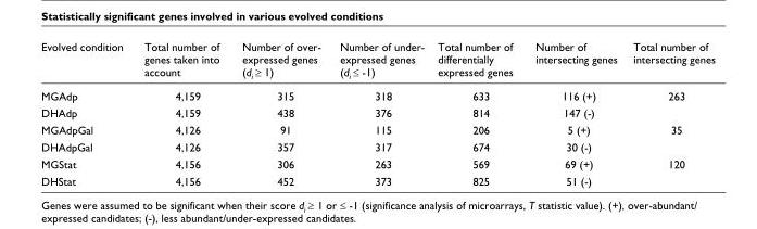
<table><thead><tr><td>Evolved condition</td><td>Total number of genes taken into account</td><td>Number of over- expressed genes (d<sub>i</sub> ≥ 1)</td><td>Number of under- expressed genes (d<sub>i</sub> ≤ -1)</td><td>Total number of differentially expressed genes</td><td>Number of intersecting genes</td><td>Total number of intersecting genes</td></tr></thead><tbody><tr><td>MGAdp</td><td>4,159</td><td>315</td><td>318</td><td>633</td><td>116 (+)</td><td>263</td></tr><tr><td>DHAdp</td><td>4,159</td><td>438</td><td>376</td><td>814</td><td>147 (-)</td><td></td></tr><tr><td>MGAdpGal</td><td>4,126</td><td>91</td><td>115</td><td>206</td><td>5 (+)</td><td>35</td></tr><tr><td>DHAdpGal</td><td>4,126</td><td>357</td><td>317</td><td>674</td><td>30 (-)</td><td></td></tr><tr><td>MGStat</td><td>4,156</td><td>306</td><td>263</td><td>569</td><td>69 (+)</td><td>120</td></tr><tr><td>DHStat</td><td>4,156</td><td>452</td><td>373</td><td>825</td><td>51 (-)</td><td></td></tr></tbody></table>